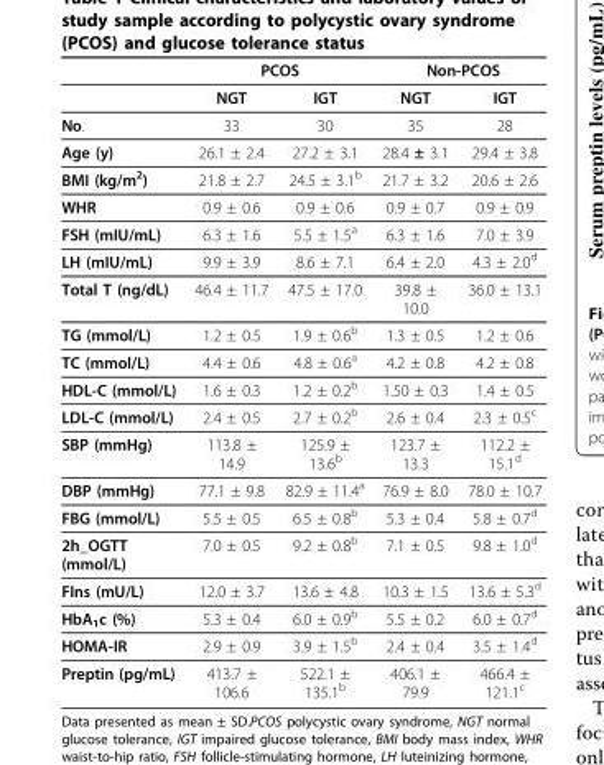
<table><thead><tr><td rowspan="2"></td><td colspan="2">PCOS</td><td colspan="2">Non-PCOS</td></tr><tr><td>NGT</td><td>IGT</td><td>NGT</td><td>IGT</td></tr></thead><tbody><tr><td>No.</td><td>33</td><td>30</td><td>35</td><td>28</td></tr><tr><td>Age (y)</td><td>26.1 ± 2.4</td><td>27.2 ± 3.1</td><td>28.4 ± 3.1</td><td>29.4 ± 3.8</td></tr><tr><td>BMI (kg/m<sup>2</sup>)</td><td>21.8 ± 2.7</td><td>24.5 ± 3.1<sup>b</sup></td><td>21.7 ± 3.2</td><td>20.6 ± 2.6</td></tr><tr><td>WHR</td><td>0.9 ± 0.6</td><td>0.9 ± 0.6</td><td>0.9 ± 0.7</td><td>0.9 ± 0.9</td></tr><tr><td>FSH (mIU/mL)</td><td>6.3 ± 1.6</td><td>5.5 ± 1.5<sup>a</sup></td><td>6.3 ± 1.6</td><td>7.0 ± 3.9</td></tr><tr><td>LH (mIU/mL)</td><td>9.9 ± 3.9</td><td>8.6 ± 7.1</td><td>6.4 ± 2.0</td><td>4.3 ± 2.0<sup>d</sup></td></tr><tr><td>Total T (ng/dL)</td><td>46.4 ± 11.7</td><td>47.5 ± 17.0</td><td>39.8 ± 10.0</td><td>36.0 ± 13.1</td></tr><tr><td>TG (mmol/L)</td><td>1.2 ± 0.5</td><td>1.9 ± 0.6<sup>b</sup></td><td>1.3 ± 0.5</td><td>1.2 ± 0.6</td></tr><tr><td>TC (mmol/L)</td><td>4.4 ± 0.6</td><td>4.8 ± 0.6<sup>a</sup></td><td>4.2 ± 0.8</td><td>4.2 ± 0.8</td></tr><tr><td>HDL-C (mmol/L)</td><td>1.6 ± 0.3</td><td>1.2 ± 0.2<sup>b</sup></td><td>1.50 ± 0.3</td><td>1.4 ± 0.5</td></tr><tr><td>LDL-C (mmol/L)</td><td>2.4 ± 0.5</td><td>2.7 ± 0.2<sup>b</sup></td><td>2.6 ± 0.4</td><td>2.3 ± 0.5<sup>c</sup></td></tr><tr><td>SBP (mmHg)</td><td>113.8 ± 14.9</td><td>125.9 ± 13.6<sup>b</sup></td><td>123.7 ± 13.3</td><td>112.2 ± 15.1<sup>d</sup></td></tr><tr><td>DBP (mmHg)</td><td>77.1 ± 9.8</td><td>82.9 ± 11.4<sup>a</sup></td><td>76.9 ± 8.0</td><td>78.0 ± 10.7</td></tr><tr><td>FBG (mmol/L)</td><td>5.5 ± 0.5</td><td>6.5 ± 0.8<sup>b</sup></td><td>5.3 ± 0.4</td><td>5.8 ± 0.7<sup>d</sup></td></tr><tr><td>2h_OGTT (mmol/L)</td><td>7.0 ± 0.5</td><td>9.2 ± 0.8<sup>b</sup></td><td>7.1 ± 0.5</td><td>9.8 ± 1.0<sup>d</sup></td></tr><tr><td>FIns (mU/L)</td><td>12.0 ± 3.7</td><td>13.6 ± 4.8</td><td>10.3 ± 1.5</td><td>13.6 ± 5.3<sup>d</sup></td></tr><tr><td>HbA<sub>1</sub>c (%)</td><td>5.3 ± 0.4</td><td>6.0 ± 0.9<sup>b</sup></td><td>5.5 ± 0.2</td><td>6.0 ± 0.7<sup>d</sup></td></tr><tr><td>HOMA-IR</td><td>2.9 ± 0.9</td><td>3.9 ± 1.5<sup>b</sup></td><td>2.4 ± 0.4</td><td>3.5 ± 1.4<sup>d</sup></td></tr><tr><td>Preptin (pg/mL)</td><td>413.7 ± 106.6</td><td>522.1 ± 135.1<sup>b</sup></td><td>406.1 ± 79.9</td><td>466.4 ± 121.1<sup>c</sup></td></tr></tbody></table>